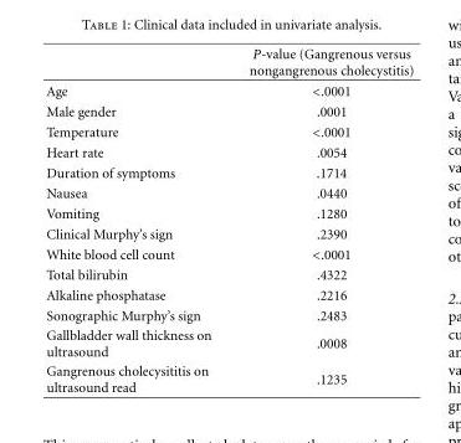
<table><thead><tr><td></td><td>P-value (Gangrenous versus nongangrenous cholecystitis)</td></tr></thead><tbody><tr><td>Age</td><td>&lt;.0001</td></tr><tr><td>Male gender</td><td>.0001</td></tr><tr><td>Temperature</td><td>&lt;.0001</td></tr><tr><td>Heart rate</td><td>.0054</td></tr><tr><td>Duration of symptoms</td><td>.1714</td></tr><tr><td>Nausea</td><td>.0440</td></tr><tr><td>Vomiting</td><td>.1280</td></tr><tr><td>Clinical Murphy’s sign</td><td>.2390</td></tr><tr><td>White blood cell count</td><td>&lt;.0001</td></tr><tr><td>Total bilirubin</td><td>.4322</td></tr><tr><td>Alkaline phosphatase</td><td>.2216</td></tr><tr><td>Sonographic Murphy’s sign</td><td>.2483</td></tr><tr><td>Gallbladder wall thickness on ultrasound</td><td>.0008</td></tr><tr><td>Gangrenous cholecysititis on ultrasound read</td><td>.1235</td></tr></tbody></table>